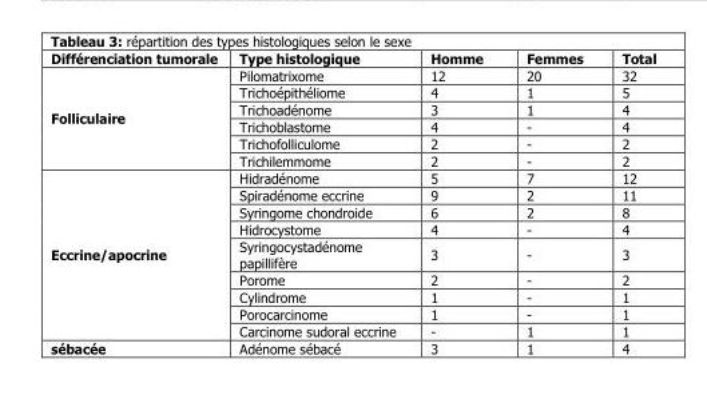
<table><thead><tr><td>Différenciation tumorale</td><td>Type histologique</td><td>Homme</td><td>Femmes</td><td>Total</td></tr></thead><tbody><tr><td rowspan="6">Folliculaire</td><td>Pilomatrixome</td><td>12</td><td>20</td><td>32</td></tr><tr><td>Trichoépithéliome</td><td>4</td><td>1</td><td>5</td></tr><tr><td>Trichoadénome</td><td>3</td><td>1</td><td>4</td></tr><tr><td>Trichoblastome</td><td>4</td><td>-</td><td>4</td></tr><tr><td>Trichofolliculome</td><td>2</td><td>-</td><td>2</td></tr><tr><td>Trichilemmome</td><td>2</td><td>-</td><td>2</td></tr><tr><td rowspan="9">Eccrine/apocrine</td><td>Hidradénome</td><td>5</td><td>7</td><td>12</td></tr><tr><td>Spiradénome eccrine</td><td>9</td><td>2</td><td>11</td></tr><tr><td>Syringome chondroide</td><td>6</td><td>2</td><td>8</td></tr><tr><td>Hidrocystome</td><td>4</td><td>-</td><td>4</td></tr><tr><td>Syringocystadénome papillifère</td><td>3</td><td>-</td><td>3</td></tr><tr><td>Porome</td><td>2</td><td>-</td><td>2</td></tr><tr><td>Cylindrome</td><td>1</td><td>-</td><td>1</td></tr><tr><td>Porocarcinome</td><td>1</td><td>-</td><td>1</td></tr><tr><td>Carcinome sudoral eccrine</td><td>-</td><td>1</td><td>1</td></tr><tr><td>sébacée</td><td>Adénome sébacé</td><td>3</td><td>1</td><td>4</td></tr></tbody></table>